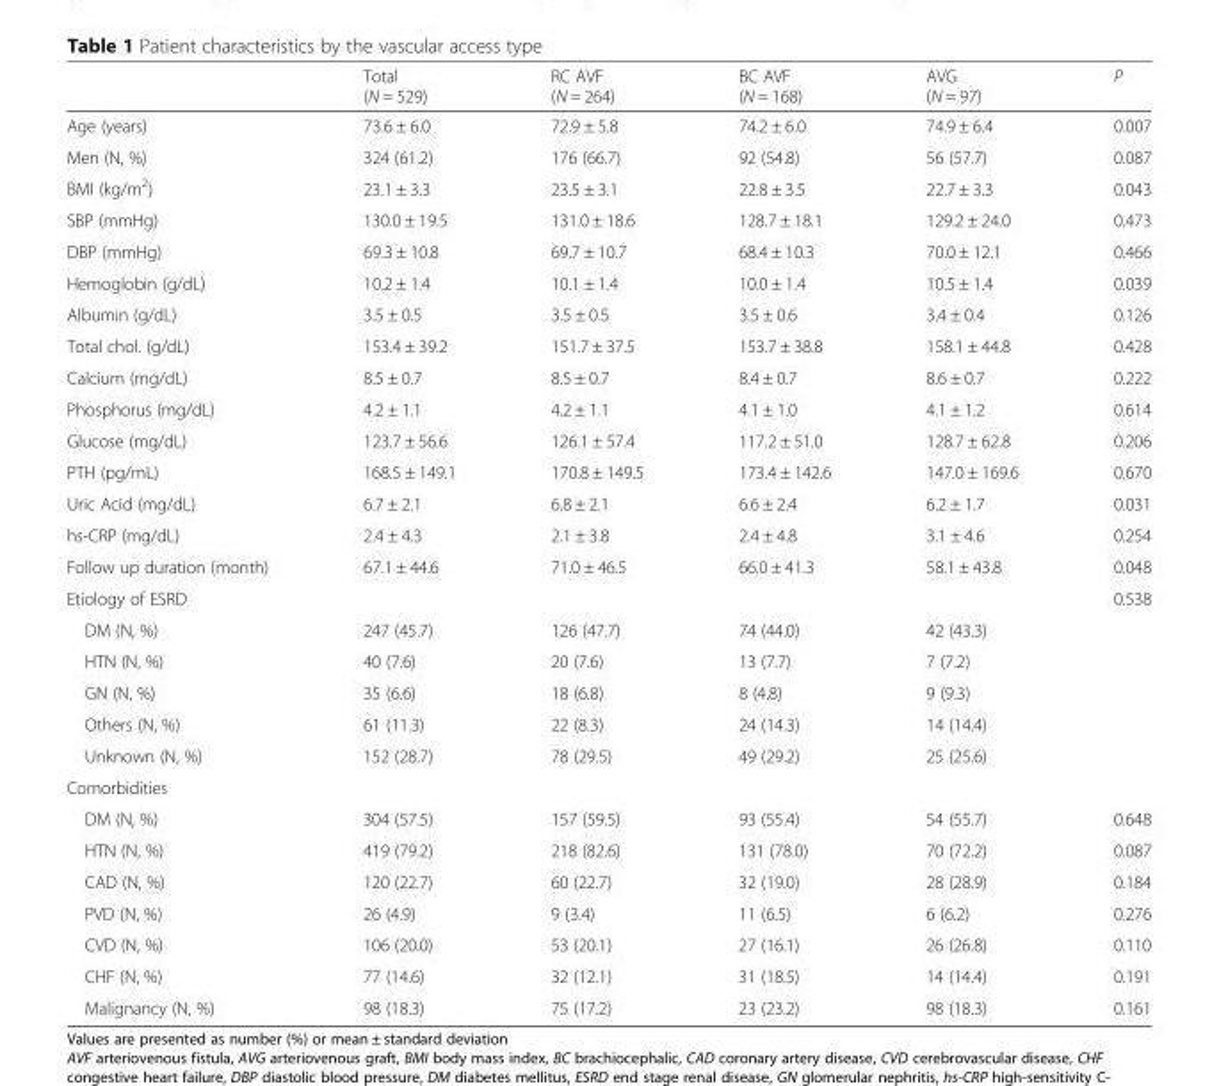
<table><thead><tr><td></td><td>Total (N = 529)</td><td>RC AVF (N = 264)</td><td>BC AVF (N = 168)</td><td>AVG (N = 97)</td><td>P</td></tr></thead><tbody><tr><td>Age (years)</td><td>73.6 ± 6.0</td><td>72.9 ± 5.8</td><td>74.2 ± 6.0</td><td>74.9 ± 6.4</td><td>0.007</td></tr><tr><td>Men (N, %)</td><td>324 (61.2)</td><td>176 (66.7)</td><td>92 (54.8)</td><td>56 (57.7)</td><td>0.087</td></tr><tr><td>BMI (kg/m<sup>2</sup>)</td><td>23.1 ± 3.3</td><td>23.5 ± 3.1</td><td>22.8 ± 3.5</td><td>22.7 ± 3.3</td><td>0.043</td></tr><tr><td>SBP (mmHg)</td><td>130.0 ± 19.5</td><td>131.0 ± 18.6</td><td>128.7 ± 18.1</td><td>129.2 ± 24.0</td><td>0.473</td></tr><tr><td>DBP (mmHg)</td><td>69.3 ± 10.8</td><td>69.7 ± 10.7</td><td>68.4 ± 10.3</td><td>70.0 ± 12.1</td><td>0.466</td></tr><tr><td>Hemoglobin (g/dL)</td><td>10.2 ± 1.4</td><td>10.1 ± 1.4</td><td>10.0 ± 1.4</td><td>10.5 ± 1.4</td><td>0.039</td></tr><tr><td>Albumin (g/dL)</td><td>3.5 ± 0.5</td><td>3.5 ± 0.5</td><td>3.5 ± 0.6</td><td>3.4 ± 0.4</td><td>0.126</td></tr><tr><td>Total chol. (g/dL)</td><td>153.4 ± 39.2</td><td>151.7 ± 37.5</td><td>153.7 ± 38.8</td><td>158.1 ± 44.8</td><td>0.428</td></tr><tr><td>Calcium (mg/dL)</td><td>8.5 ± 0.7</td><td>8.5 ± 0.7</td><td>8.4 ± 0.7</td><td>8.6 ± 0.7</td><td>0.222</td></tr><tr><td>Phosphorus (mg/dL)</td><td>4.2 ± 1.1</td><td>4.2 ± 1.1</td><td>4.1 ± 1.0</td><td>4.1 ± 1.2</td><td>0.614</td></tr><tr><td>Glucose (mg/dL)</td><td>123.7 ± 56.6</td><td>126.1 ± 57.4</td><td>117.2 ± 51.0</td><td>128.7 ± 62.8</td><td>0.206</td></tr><tr><td>PTH (pg/mL)</td><td>168.5 ± 149.1</td><td>170.8 ± 149.5</td><td>173.4 ± 142.6</td><td>147.0 ± 169.6</td><td>0.670</td></tr><tr><td>Uric Acid (mg/dL)</td><td>6.7 ± 2.1</td><td>6.8 ± 2.1</td><td>6.6 ± 2.4</td><td>6.2 ± 1.7</td><td>0.031</td></tr><tr><td>hs-CRP (mg/dL)</td><td>2.4 ± 4.3</td><td>2.1 ± 3.8</td><td>2.4 ± 4.8</td><td>3.1 ± 4.6</td><td>0.254</td></tr><tr><td>Follow up duration (month)</td><td>67.1 ± 44.6</td><td>71.0 ± 46.5</td><td>66.0 ± 41.3</td><td>58.1 ± 43.8</td><td>0.048</td></tr><tr><td>Etiology of ESRD</td><td></td><td></td><td></td><td></td><td>0.538</td></tr><tr><td>DM (N, %)</td><td>247 (45.7)</td><td>126 (47.7)</td><td>74 (44.0)</td><td>42 (43.3)</td><td></td></tr><tr><td>HTN (N, %)</td><td>40 (7.6)</td><td>20 (7.6)</td><td>13 (7.7)</td><td>7 (7.2)</td><td></td></tr><tr><td>GN (N, %)</td><td>35 (6.6)</td><td>18 (6.8)</td><td>8 (4.8)</td><td>9 (9.3)</td><td></td></tr><tr><td>Others (N, %)</td><td>61 (11.3)</td><td>22 (8.3)</td><td>24 (14.3)</td><td>14 (14.4)</td><td></td></tr><tr><td>Unknown (N, %)</td><td>152 (28.7)</td><td>78 (29.5)</td><td>49 (29.2)</td><td>25 (25.6)</td><td></td></tr><tr><td colspan="6">Comorbidities</td></tr><tr><td>DM (N, %)</td><td>304 (57.5)</td><td>157 (59.5)</td><td>93 (55.4)</td><td>54 (55.7)</td><td>0.648</td></tr><tr><td>HTN (N, %)</td><td>419 (79.2)</td><td>218 (82.6)</td><td>131 (78.0)</td><td>70 (72.2)</td><td>0.087</td></tr><tr><td>CAD (N, %)</td><td>120 (22.7)</td><td>60 (22.7)</td><td>32 (19.0)</td><td>28 (28.9)</td><td>0.184</td></tr><tr><td>PVD (N, %)</td><td>26 (4.9)</td><td>9 (3.4)</td><td>11 (6.5)</td><td>6 (6.2)</td><td>0.276</td></tr><tr><td>CVD (N, %)</td><td>106 (20.0)</td><td>53 (20.1)</td><td>27 (16.1)</td><td>26 (26.8)</td><td>0.110</td></tr><tr><td>CHF (N, %)</td><td>77 (14.6)</td><td>32 (12.1)</td><td>31 (18.5)</td><td>14 (14.4)</td><td>0.191</td></tr><tr><td>Malignancy (N, %)</td><td>98 (18.3)</td><td>75 (17.2)</td><td>23 (23.2)</td><td>98 (18.3)</td><td>0.161</td></tr></tbody></table>